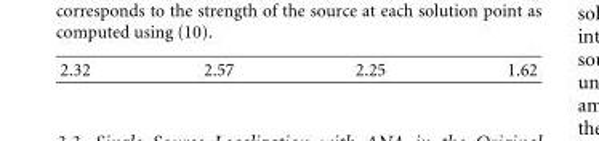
<table><tbody><tr><td>2.32</td><td>2.57</td><td>2.25</td><td>1.62</td></tr></tbody></table>